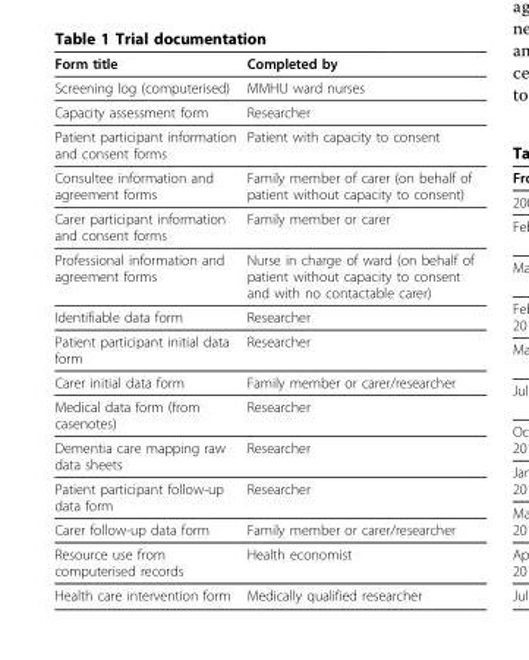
<table><thead><tr><td>Form title</td><td>Completed by</td></tr></thead><tbody><tr><td>Screening log (computerised)</td><td>MMHU ward nurses</td></tr><tr><td>Capacity assessment form</td><td>Researcher</td></tr><tr><td>Patient participant information and consent forms</td><td>Patient with capacity to consent</td></tr><tr><td>Consultee information and agreement forms</td><td>Family member of carer (on behalf of patient without capacity to consent)</td></tr><tr><td>Carer participant information and consent forms</td><td>Family member or carer</td></tr><tr><td>Professional information and agreement forms</td><td>Nurse in charge of ward (on behalf of patient without capacity to consent and with no contactable carer)</td></tr><tr><td>Identifiable data form</td><td>Researcher</td></tr><tr><td>Patient participant initial data form</td><td>Researcher</td></tr><tr><td>Carer initial data form</td><td>Family member or carer/researcher</td></tr><tr><td>Medical data form (from casenotes)</td><td>Researcher</td></tr><tr><td>Dementia care mapping raw data sheets</td><td>Researcher</td></tr><tr><td>Patient participant follow-up data form</td><td>Researcher</td></tr><tr><td>Carer follow-up data form</td><td>Family member or carer/researcher</td></tr><tr><td>Resource use from computerised records</td><td>Health economist</td></tr><tr><td>Health care intervention form</td><td>Medically qualified researcher</td></tr></tbody></table>